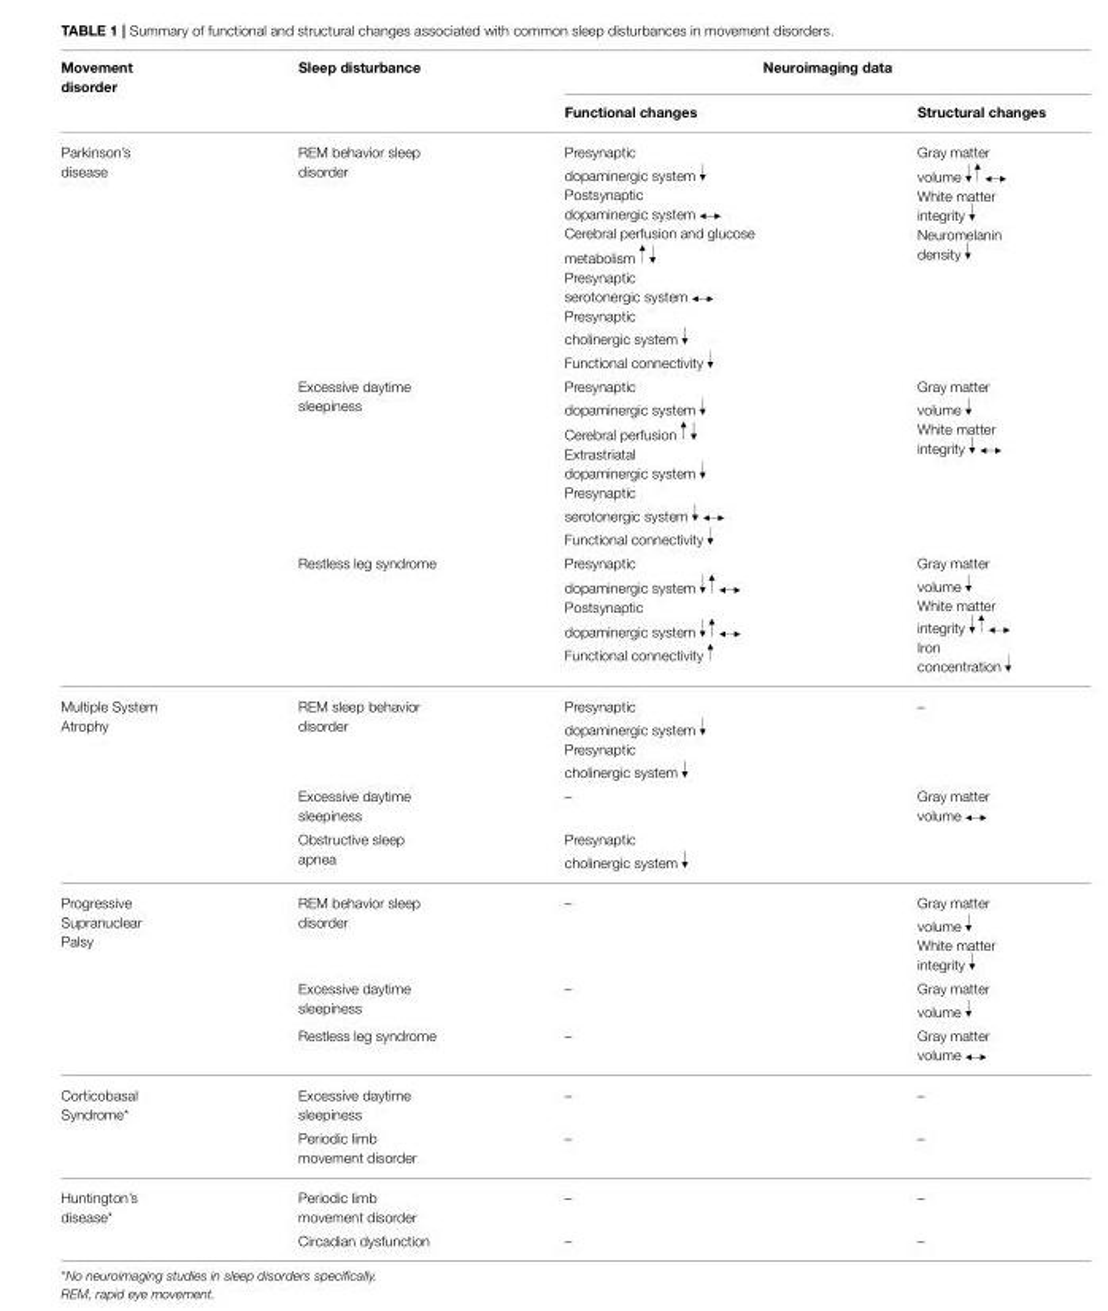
<table><thead><tr><td rowspan="2">Movement disorder</td><td rowspan="2">Sleep disturbance</td><td colspan="2">Neuroimaging data</td></tr><tr><td>Functional changes</td><td>Structural changes</td></tr></thead><tbody><tr><td rowspan="3">Parkinson’s disease</td><td>REM behavior sleep disorder</td><td>Presynaptic dopaminergic system Postsynaptic dopaminergic system Cerebral perfusion and glucose metabolism Presynaptic serotonergic system Presynaptic cholinergic system Functional connectivity</td><td>Gray matter volume White matter integrity Neuromelanin density</td></tr><tr><td>Excessive daytime sleepiness</td><td>Presynaptic dopaminergic system Cerebral perfusion Extrastriatal dopaminergic system Presynaptic serotonergic system Functional connectivity</td><td>Gray matter volume White matter integrity</td></tr><tr><td>Restless leg syndrome</td><td>Presynaptic dopaminergic system Postsynaptic dopaminergic system Functional connectivity</td><td>Gray matter volume White matter integrity Iron concentration</td></tr><tr><td rowspan="3">Multiple System Atrophy</td><td>REM sleep behavior disorder</td><td>Presynaptic dopaminergic system Presynaptic cholinergic system</td><td>–</td></tr><tr><td>Excessive daytime sleepiness</td><td>–</td><td>Gray matter volume</td></tr><tr><td>Obstructive sleep apnea</td><td>Presynaptic cholinergic system</td><td></td></tr><tr><td rowspan="3">Progressive Supranuclear Palsy</td><td>REM behavior sleep disorder</td><td>–</td><td>Gray matter volume White matter integrity</td></tr><tr><td>Excessive daytime sleepiness</td><td>–</td><td>Gray matter volume</td></tr><tr><td>Restless leg syndrome</td><td>–</td><td>Gray matter volume</td></tr><tr><td rowspan="2">Corticobasal Syndrome*</td><td>Excessive daytime sleepiness</td><td>–</td><td>–</td></tr><tr><td>Periodic limb movement disorder</td><td>–</td><td>–</td></tr><tr><td rowspan="2">Huntington’s disease*</td><td>Periodic limb movement disorder</td><td>–</td><td>–</td></tr><tr><td>Circadian dysfunction</td><td>–</td><td>–</td></tr></tbody></table>